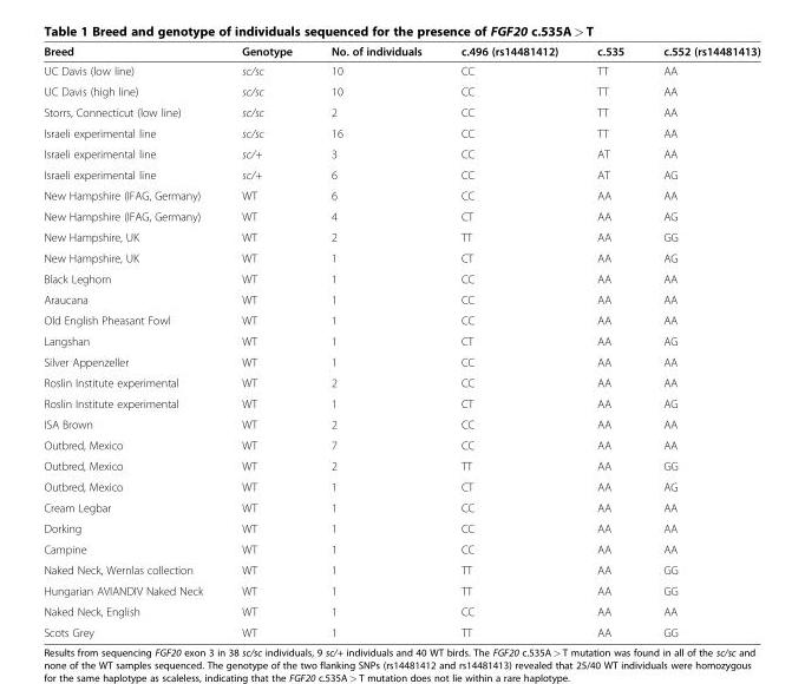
<table><thead><tr><td>Breed</td><td>Genotype</td><td>No. of individuals</td><td>c.496 (rs14481412)</td><td>c.535</td><td>c.552 (rs14481413)</td></tr></thead><tbody><tr><td>UC Davis (low line)</td><td>sc/sc</td><td>10</td><td>CC</td><td>TT</td><td>AA</td></tr><tr><td>UC Davis (high line)</td><td>sc/sc</td><td>10</td><td>CC</td><td>TT</td><td>AA</td></tr><tr><td>Storrs, Connecticut (low line)</td><td>sc/sc</td><td>2</td><td>CC</td><td>TT</td><td>AA</td></tr><tr><td>Israeli experimental line</td><td>sc/sc</td><td>16</td><td>CC</td><td>TT</td><td>AA</td></tr><tr><td>Israeli experimental line</td><td>sc/+</td><td>3</td><td>CC</td><td>AT</td><td>AA</td></tr><tr><td>Israeli experimental line</td><td>sc/+</td><td>6</td><td>CC</td><td>AT</td><td>AG</td></tr><tr><td>New Hampshire (IFAG, Germany)</td><td>WT</td><td>6</td><td>CC</td><td>AA</td><td>AA</td></tr><tr><td>New Hampshire (IFAG, Germany)</td><td>WT</td><td>4</td><td>CT</td><td>AA</td><td>AG</td></tr><tr><td>New Hampshire, UK</td><td>WT</td><td>2</td><td>TT</td><td>AA</td><td>GG</td></tr><tr><td>New Hampshire, UK</td><td>WT</td><td>1</td><td>CT</td><td>AA</td><td>AG</td></tr><tr><td>Black Leghorn</td><td>WT</td><td>1</td><td>CC</td><td>AA</td><td>AA</td></tr><tr><td>Araucana</td><td>WT</td><td>1</td><td>CC</td><td>AA</td><td>AA</td></tr><tr><td>Old English Pheasant Fowl</td><td>WT</td><td>1</td><td>CC</td><td>AA</td><td>AA</td></tr><tr><td>Langshan</td><td>WT</td><td>1</td><td>CT</td><td>AA</td><td>AG</td></tr><tr><td>Silver Appenzeller</td><td>WT</td><td>1</td><td>CC</td><td>AA</td><td>AA</td></tr><tr><td>Roslin Institute experimental</td><td>WT</td><td>2</td><td>CC</td><td>AA</td><td>AA</td></tr><tr><td>Roslin Institute experimental</td><td>WT</td><td>1</td><td>CT</td><td>AA</td><td>AG</td></tr><tr><td>ISA Brown</td><td>WT</td><td>2</td><td>CC</td><td>AA</td><td>AA</td></tr><tr><td>Outbred, Mexico</td><td>WT</td><td>7</td><td>CC</td><td>AA</td><td>AA</td></tr><tr><td>Outbred, Mexico</td><td>WT</td><td>2</td><td>TT</td><td>AA</td><td>GG</td></tr><tr><td>Outbred, Mexico</td><td>WT</td><td>1</td><td>CT</td><td>AA</td><td>AG</td></tr><tr><td>Cream Legbar</td><td>WT</td><td>1</td><td>CC</td><td>AA</td><td>AA</td></tr><tr><td>Dorking</td><td>WT</td><td>1</td><td>CC</td><td>AA</td><td>AA</td></tr><tr><td>Campine</td><td>WT</td><td>1</td><td>CC</td><td>AA</td><td>AA</td></tr><tr><td>Naked Neck, Wernlas collection</td><td>WT</td><td>1</td><td>TT</td><td>AA</td><td>GG</td></tr><tr><td>Hungarian AVIANDIV Naked Neck</td><td>WT</td><td>1</td><td>TT</td><td>AA</td><td>GG</td></tr><tr><td>Naked Neck, English</td><td>WT</td><td>1</td><td>CC</td><td>AA</td><td>AA</td></tr><tr><td>Scots Grey</td><td>WT</td><td>1</td><td>TT</td><td>AA</td><td>GG</td></tr></tbody></table>